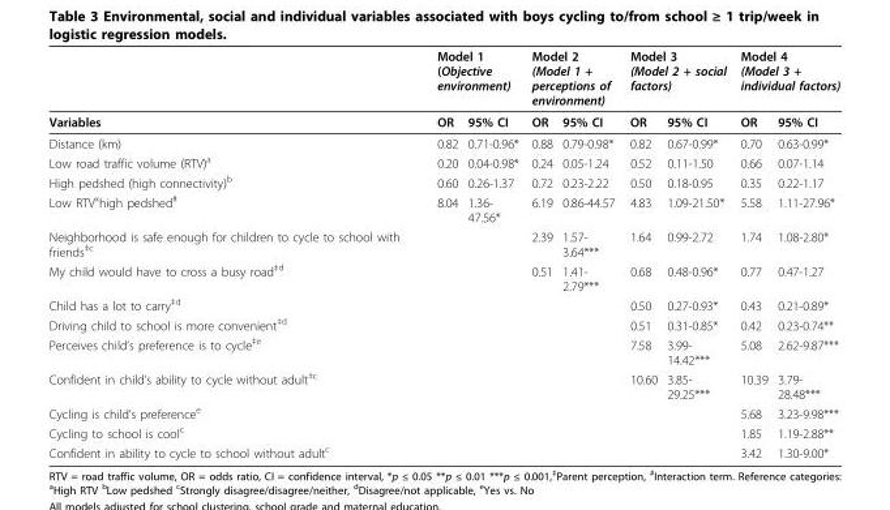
<table><thead><tr><td rowspan="2">Variables</td><td colspan="2">Model 1 (Objective environment)</td><td colspan="2">Model 2 (Model 1 + perceptions of environment)</td><td colspan="2">Model 3 (Model 2 + social factors)</td><td colspan="2">Model 4 (Model 3 + individual factors)</td></tr><tr><td>OR</td><td>95% CI</td><td>OR</td><td>95% CI</td><td>OR</td><td>95% CI</td><td>OR</td><td>95% CI</td></tr></thead><tbody><tr><td>Distance (km)</td><td>0.82</td><td>0.71-0.96*</td><td>0.88</td><td>0.79-0.98*</td><td>0.82</td><td>0.67-0.99*</td><td>0.70</td><td>0.63-0.99*</td></tr><tr><td>Low road traffic volume (RTV)<sup>a</sup></td><td>0.20</td><td>0.04-0.98*</td><td>0.24</td><td>0.05-1.24</td><td>0.52</td><td>0.11-1.50</td><td>0.66</td><td>0.07-1.14</td></tr><tr><td>High pedshed (high connectivity)<sup>b</sup></td><td>0.60</td><td>0.26-1.37</td><td>0.72</td><td>0.23-2.22</td><td>0.50</td><td>0.18-0.95</td><td>0.35</td><td>0.22-1.17</td></tr><tr><td>Low RTV<sup>x</sup>high pedshed<sup>#</sup></td><td>8.04</td><td>1.36- 47.56*</td><td>6.19</td><td>0.86-44.57</td><td>4.83</td><td>1.09-21.50*</td><td>5.58</td><td>1.11-27.96*</td></tr><tr><td>Neighborhood is safe enough for children to cycle to school with friends<sup>‡c</sup></td><td></td><td></td><td>2.39</td><td>1.57- 3.64***</td><td>1.64</td><td>0.99-2.72</td><td>1.74</td><td>1.08-2.80*</td></tr><tr><td>My child would have to cross a busy road<sup>‡d</sup></td><td></td><td></td><td>0.51</td><td>1.41- 2.79***</td><td>0.68</td><td>0.48-0.96*</td><td>0.77</td><td>0.47-1.27</td></tr><tr><td>Child has a lot to carry<sup>‡d</sup></td><td></td><td></td><td></td><td></td><td>0.50</td><td>0.27-0.93*</td><td>0.43</td><td>0.21-0.89*</td></tr><tr><td>Driving child to school is more convenient<sup>‡d</sup></td><td></td><td></td><td></td><td></td><td>0.51</td><td>0.31-0.85*</td><td>0.42</td><td>0.23-0.74**</td></tr><tr><td>Perceives child’s preference is to cycle<sup>‡e</sup></td><td></td><td></td><td></td><td></td><td>7.58</td><td>3.99- 14.42***</td><td>5.08</td><td>2.62-9.87***</td></tr><tr><td>Confident in child’s ability to cycle without adult<sup>‡c</sup></td><td></td><td></td><td></td><td></td><td>10.60</td><td>3.85- 29.25***</td><td>10.39</td><td>3.79- 28.48***</td></tr><tr><td>Cycling is child’s preference<sup>e</sup></td><td></td><td></td><td></td><td></td><td></td><td></td><td>5.68</td><td>3.23-9.98***</td></tr><tr><td>Cycling to school is cool<sup>c</sup></td><td></td><td></td><td></td><td></td><td></td><td></td><td>1.85</td><td>1.19-2.88**</td></tr><tr><td>Confident in ability to cycle to school without adult<sup>c</sup></td><td></td><td></td><td></td><td></td><td></td><td></td><td>3.42</td><td>1.30-9.00*</td></tr></tbody></table>